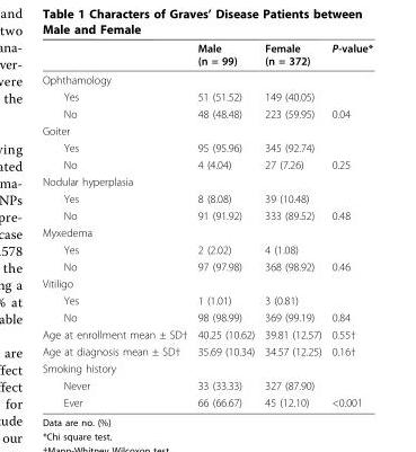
<table><thead><tr><td></td><td>Male (n = 99)</td><td>Female (n = 372)</td><td>P-value*</td></tr></thead><tbody><tr><td colspan="4">Ophthamology</td></tr><tr><td>Yes</td><td>51 (51.52)</td><td>149 (40.05)</td><td></td></tr><tr><td>No</td><td>48 (48.48)</td><td>223 (59.95)</td><td>0.04</td></tr><tr><td colspan="4">Goiter</td></tr><tr><td>Yes</td><td>95 (95.96)</td><td>345 (92.74)</td><td></td></tr><tr><td>No</td><td>4 (4.04)</td><td>27 (7.26)</td><td>0.25</td></tr><tr><td colspan="4">Nodular hyperplasia</td></tr><tr><td>Yes</td><td>8 (8.08)</td><td>39 (10.48)</td><td></td></tr><tr><td>No</td><td>91 (91.92)</td><td>333 (89.52)</td><td>0.48</td></tr><tr><td colspan="4">Myxedema</td></tr><tr><td>Yes</td><td>2 (2.02)</td><td>4 (1.08)</td><td></td></tr><tr><td>No</td><td>97 (97.98)</td><td>368 (98.92)</td><td>0.46</td></tr><tr><td colspan="4">Vitiligo</td></tr><tr><td>Yes</td><td>1 (1.01)</td><td>3 (0.81)</td><td></td></tr><tr><td>No</td><td>98 (98.99)</td><td>369 (99.19)</td><td>0.84</td></tr><tr><td>Age at enrollment mean ± SD†</td><td>40.25 (10.62)</td><td>39.81 (12.57)</td><td>0.55†</td></tr><tr><td>Age at diagnosis mean ± SD†</td><td>35.69 (10.34)</td><td>34.57 (12.25)</td><td>0.16†</td></tr><tr><td colspan="4">Smoking history</td></tr><tr><td>Never</td><td>33 (33.33)</td><td>327 (87.90)</td><td></td></tr><tr><td>Ever</td><td>66 (66.67)</td><td>45 (12.10)</td><td>&lt;0.001</td></tr></tbody></table>